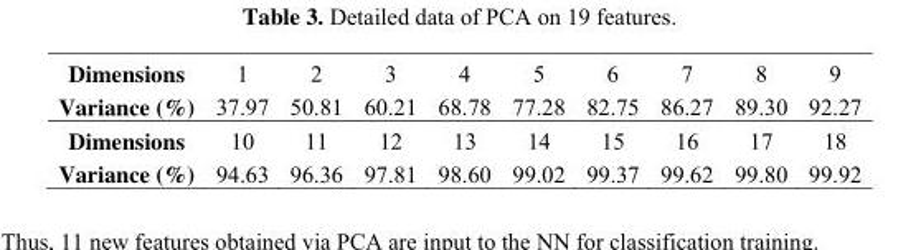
<table><tbody><tr><td>Dimensions</td><td>1</td><td>2</td><td>3</td><td>4</td><td>5</td><td>6</td><td>7</td><td>8</td><td>9</td></tr><tr><td>Variance (%)</td><td>37.97</td><td>50.81</td><td>60.21</td><td>68.78</td><td>77.28</td><td>82.75</td><td>86.27</td><td>89.30</td><td>92.27</td></tr><tr><td>Dimensions</td><td>10</td><td>11</td><td>12</td><td>13</td><td>14</td><td>15</td><td>16</td><td>17</td><td>18</td></tr><tr><td>Variance (%)</td><td>94.63</td><td>96.36</td><td>97.81</td><td>98.60</td><td>99.02</td><td>99.37</td><td>99.62</td><td>99.80</td><td>99.92</td></tr></tbody></table>